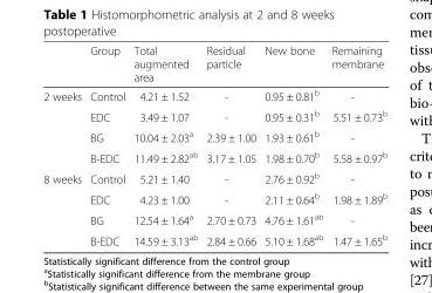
<table><thead><tr><td></td><td>Group</td><td>Total augmented area</td><td>Residual particle</td><td>New bone</td><td>Remaining membrane</td></tr></thead><tbody><tr><td rowspan="4">2 weeks</td><td>Control</td><td>4.21 ± 1.52</td><td>-</td><td>0.95 ± 0.81<sup>b</sup></td><td>-</td></tr><tr><td>EDC</td><td>3.49 ± 1.07</td><td>-</td><td>0.95 ± 0.31<sup>b</sup></td><td>5.51 ± 0.73<sup>b</sup></td></tr><tr><td>BG</td><td>10.04 ± 2.03<sup>a</sup></td><td>2.39 ± 1.00</td><td>1.93 ± 0.61<sup>b</sup></td><td>-</td></tr><tr><td>B-EDC</td><td>11.49 ± 2.82<sup>ab</sup></td><td>3.17 ± 1.05</td><td>1.98 ± 0.70<sup>b</sup></td><td>5.58 ± 0.97<sup>b</sup></td></tr><tr><td rowspan="4">8 weeks</td><td>Control</td><td>5.21 ± 1.40</td><td>-</td><td>2.76 ± 0.92<sup>b</sup></td><td>-</td></tr><tr><td>EDC</td><td>4.23 ± 1.00</td><td>-</td><td>2.11 ± 0.64<sup>b</sup></td><td>1.98 ± 1.89<sup>b</sup></td></tr><tr><td>BG</td><td>12.54 ± 1.64<sup>a</sup></td><td>2.70 ± 0.73</td><td>4.76 ± 1.61<sup>ab</sup></td><td>-</td></tr><tr><td>B-EDC</td><td>14.59 ± 3.13<sup>ab</sup></td><td>2.84 ± 0.66</td><td>5.10 ± 1.68<sup>ab</sup></td><td>1.47 ± 1.65<sup>b</sup></td></tr></tbody></table>